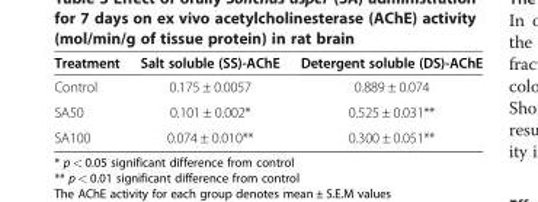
<table><thead><tr><td>Treatment</td><td>Salt soluble (SS)-AChE</td><td>Detergent soluble (DS)-AChE</td></tr></thead><tbody><tr><td>Control</td><td>0.175 ± 0.0057</td><td>0.889 ± 0.074</td></tr><tr><td>SA50</td><td>0.101 ± 0.002*</td><td>0.525 ± 0.031**</td></tr><tr><td>SA100</td><td>0.074 ± 0.010**</td><td>0.300 ± 0.051**</td></tr></tbody></table>